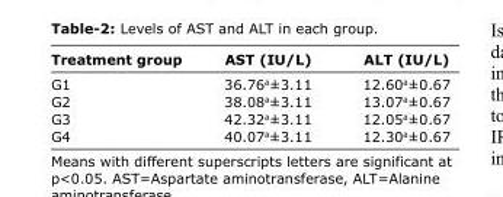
<table><thead><tr><td>Treatment group</td><td>AST (IU/L)</td><td>ALT (IU/L)</td></tr></thead><tbody><tr><td>G1</td><td>36.76<sup>a</sup>±3.11</td><td>12.60<sup>a</sup>±0.67</td></tr><tr><td>G2</td><td>38.08<sup>a</sup>±3.11</td><td>13.07<sup>a</sup>±0.67</td></tr><tr><td>G3</td><td>42.32<sup>a</sup>±3.11</td><td>12.05<sup>a</sup>±0.67</td></tr><tr><td>G4</td><td>40.07<sup>a</sup>±3.11</td><td>12.30<sup>a</sup>±0.67</td></tr></tbody></table>